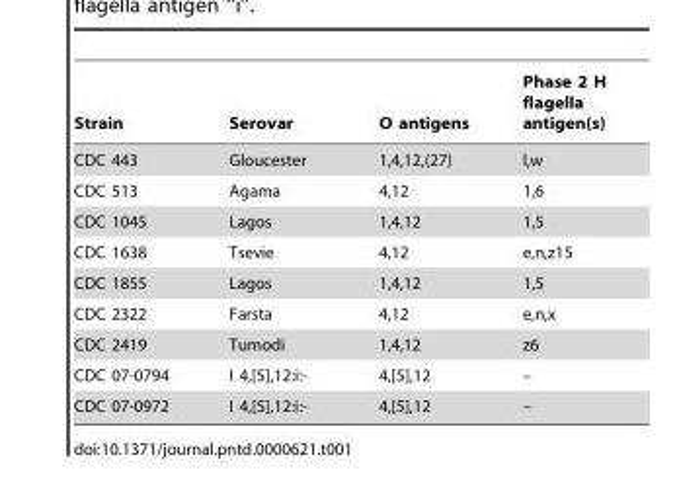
<table><thead><tr><td>Strain</td><td>Serovar</td><td>O antigens</td><td>Phase 2 H flagella antigen(s)</td></tr></thead><tbody><tr><td>CDC 443</td><td>Gloucester</td><td>1,4,12,(27)</td><td>l,w</td></tr><tr><td>CDC 513</td><td>Agama</td><td>4,12</td><td>1,6</td></tr><tr><td>CDC 1045</td><td>Lagos</td><td>1,4,12</td><td>1,5</td></tr><tr><td>CDC 1638</td><td>Tsevie</td><td>4,12</td><td>e,n,z15</td></tr><tr><td>CDC 1855</td><td>Lagos</td><td>1,4,12</td><td>1,5</td></tr><tr><td>CDC 2322</td><td>Farsta</td><td>4,12</td><td>e,n,x</td></tr><tr><td>CDC 2419</td><td>Tumodi</td><td>1,4,12</td><td>z6</td></tr><tr><td>CDC 07-0794</td><td>I 4,[5],12:i:-</td><td>4,[5],12</td><td>–</td></tr><tr><td>CDC 07-0972</td><td>I 4,[5],12:i:-</td><td>4,[5],12</td><td>–</td></tr></tbody></table>